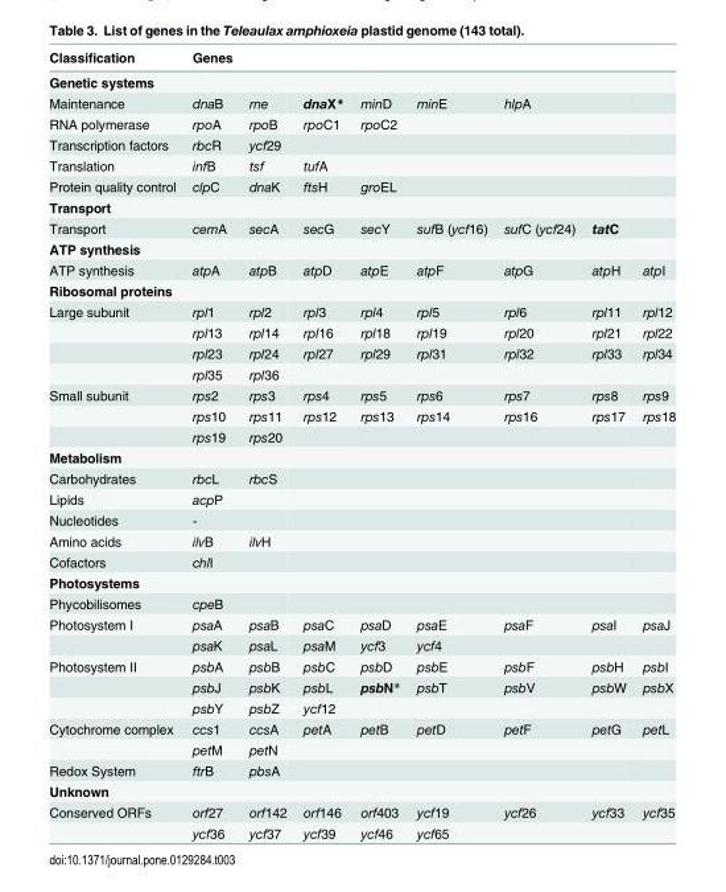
<table><thead><tr><td>Classification</td><td>Genes</td><td></td><td></td><td></td><td></td><td></td><td></td><td></td></tr></thead><tbody><tr><td colspan="9">Genetic systems</td></tr><tr><td>Maintenance</td><td>dnaB</td><td>rne</td><td>dnaX*</td><td>minD</td><td>minE</td><td>hlpA</td><td></td><td></td></tr><tr><td>RNA polymerase</td><td>rpoA</td><td>rpoB</td><td>rpoC1</td><td>rpoC2</td><td></td><td></td><td></td><td></td></tr><tr><td>Transcription factors</td><td>rbcR</td><td>ycf29</td><td></td><td></td><td></td><td></td><td></td><td></td></tr><tr><td>Translation</td><td>infB</td><td>tsf</td><td>tufA</td><td></td><td></td><td></td><td></td><td></td></tr><tr><td>Protein quality control</td><td>clpC</td><td>dnaK</td><td>ftsH</td><td>groEL</td><td></td><td></td><td></td><td></td></tr><tr><td colspan="9">Transport</td></tr><tr><td>Transport</td><td>cemA</td><td>secA</td><td>secG</td><td>secY</td><td>sufB (ycf16)</td><td>sufC (ycf24)</td><td>tatC</td><td></td></tr><tr><td colspan="9">ATP synthesis</td></tr><tr><td>ATP synthesis</td><td>atpA</td><td>atpB</td><td>atpD</td><td>atpE</td><td>atpF</td><td>atpG</td><td>atpH</td><td>atpI</td></tr><tr><td colspan="9">Ribosomal proteins</td></tr><tr><td rowspan="4">Large subunit</td><td>rpl1</td><td>rpl2</td><td>rpl3</td><td>rpl4</td><td>rpl5</td><td>rpl6</td><td>rpl11</td><td>rpl12</td></tr><tr><td>rpl13</td><td>rpl14</td><td>rpl16</td><td>rpl18</td><td>rpl19</td><td>rpl20</td><td>rpl21</td><td>rpl22</td></tr><tr><td>rpl23</td><td>rpl24</td><td>rpl27</td><td>rpl29</td><td>rpl31</td><td>rpl32</td><td>rpl33</td><td>rpl34</td></tr><tr><td>rpl35</td><td>rpl36</td><td></td><td></td><td></td><td></td><td></td><td></td></tr><tr><td rowspan="3">Small subunit</td><td>rps2</td><td>rps3</td><td>rps4</td><td>rps5</td><td>rps6</td><td>rps7</td><td>rps8</td><td>rps9</td></tr><tr><td>rps10</td><td>rps11</td><td>rps12</td><td>rps13</td><td>rps14</td><td>rps16</td><td>rps17</td><td>rps18</td></tr><tr><td>rps19</td><td>rps20</td><td></td><td></td><td></td><td></td><td></td><td></td></tr><tr><td colspan="9">Metabolism</td></tr><tr><td>Carbohydrates</td><td>rbcL</td><td>rbcS</td><td></td><td></td><td></td><td></td><td></td><td></td></tr><tr><td>Lipids</td><td>acpP</td><td></td><td></td><td></td><td></td><td></td><td></td><td></td></tr><tr><td>Nucleotides</td><td>-</td><td></td><td></td><td></td><td></td><td></td><td></td><td></td></tr><tr><td>Amino acids</td><td>ilvB</td><td>ilvH</td><td></td><td></td><td></td><td></td><td></td><td></td></tr><tr><td>Cofactors</td><td>chlI</td><td></td><td></td><td></td><td></td><td></td><td></td><td></td></tr><tr><td colspan="9">Photosystems</td></tr><tr><td>Phycobilisomes</td><td>cpeB</td><td></td><td></td><td></td><td></td><td></td><td></td><td></td></tr><tr><td rowspan="2">Photosystem I</td><td>psaA</td><td>psaB</td><td>psaC</td><td>psaD</td><td>psaE</td><td>psaF</td><td>psaI</td><td>psaJ</td></tr><tr><td>psaK</td><td>psaL</td><td>psaM</td><td>ycf3</td><td>ycf4</td><td></td><td></td><td></td></tr><tr><td rowspan="3">Photosystem II</td><td>psbA</td><td>psbB</td><td>psbC</td><td>psbD</td><td>psbE</td><td>psbF</td><td>psbH</td><td>psbI</td></tr><tr><td>psbJ</td><td>psbK</td><td>psbL</td><td>psbN*</td><td>psbT</td><td>psbV</td><td>psbW</td><td>psbX</td></tr><tr><td>psbY</td><td>psbZ</td><td>ycf12</td><td></td><td></td><td></td><td></td><td></td></tr><tr><td rowspan="2">Cytochrome complex</td><td>ccs1</td><td>ccsA</td><td>petA</td><td>petB</td><td>petD</td><td>petF</td><td>petG</td><td>petL</td></tr><tr><td>petM</td><td>petN</td><td></td><td></td><td></td><td></td><td></td><td></td></tr><tr><td>Redox System</td><td>ftrB</td><td>pbsA</td><td></td><td></td><td></td><td></td><td></td><td></td></tr><tr><td colspan="9">Unknown</td></tr><tr><td rowspan="2">Conserved ORFs</td><td>orf27</td><td>orf142</td><td>orf146</td><td>orf403</td><td>ycf19</td><td>ycf26</td><td>ycf33</td><td>ycf35</td></tr><tr><td>ycf36</td><td>ycf37</td><td>ycf39</td><td>ycf46</td><td>ycf65</td><td></td><td></td><td></td></tr></tbody></table>